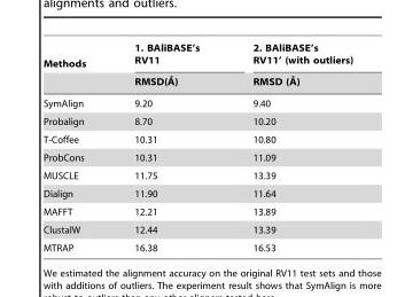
<table><thead><tr><td rowspan="2">Methods</td><td rowspan="2">1. BAliBASE’s RV11 RMSD(A˚ )</td><td rowspan="2">2. BAliBASE’s RV11’ (with outliers) RMSD (A˚ )</td></tr><tr></tr></thead><tbody><tr><td>SymAlign</td><td>9.20</td><td>9.40</td></tr><tr><td>Probalign</td><td>8.70</td><td>10.20</td></tr><tr><td>T-Coffee</td><td>10.31</td><td>10.80</td></tr><tr><td>ProbCons</td><td>10.31</td><td>11.09</td></tr><tr><td>MUSCLE</td><td>11.75</td><td>13.39</td></tr><tr><td>Dialign</td><td>11.90</td><td>11.64</td></tr><tr><td>MAFFT</td><td>12.21</td><td>13.89</td></tr><tr><td>ClustalW</td><td>12.44</td><td>13.39</td></tr><tr><td>MTRAP</td><td>16.38</td><td>16.53</td></tr></tbody></table>